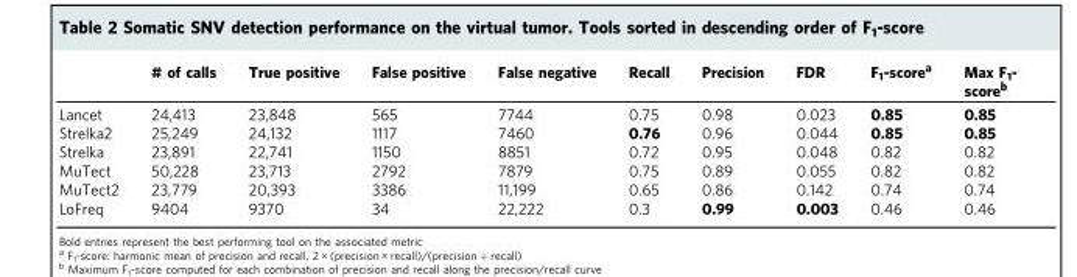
<table><thead><tr><td></td><td># of calls</td><td>True positive</td><td>False positive</td><td>False negative</td><td>Recall</td><td>Precision</td><td>FDR</td><td>F<sub>1</sub>-score<sup>a</sup></td><td>Max F<sub>1</sub>- score<sup>b</sup></td></tr></thead><tbody><tr><td>Lancet</td><td>24,413</td><td>23,848</td><td>565</td><td>7744</td><td>0.75</td><td>0.98</td><td>0.023</td><td>0.85</td><td>0.85</td></tr><tr><td>Strelka2</td><td>25,249</td><td>24,132</td><td>1117</td><td>7460</td><td>0.76</td><td>0.96</td><td>0.044</td><td>0.85</td><td>0.85</td></tr><tr><td>Strelka</td><td>23,891</td><td>22,741</td><td>1150</td><td>8851</td><td>0.72</td><td>0.95</td><td>0.048</td><td>0.82</td><td>0.82</td></tr><tr><td>MuTect</td><td>50,228</td><td>23,713</td><td>2792</td><td>7879</td><td>0.75</td><td>0.89</td><td>0.055</td><td>0.82</td><td>0.82</td></tr><tr><td>MuTect2</td><td>23,779</td><td>20,393</td><td>3386</td><td>11,199</td><td>0.65</td><td>0.86</td><td>0.142</td><td>0.74</td><td>0.74</td></tr><tr><td>LoFreq</td><td>9404</td><td>9370</td><td>34</td><td>22,222</td><td>0.3</td><td>0.99</td><td>0.003</td><td>0.46</td><td>0.46</td></tr></tbody></table>